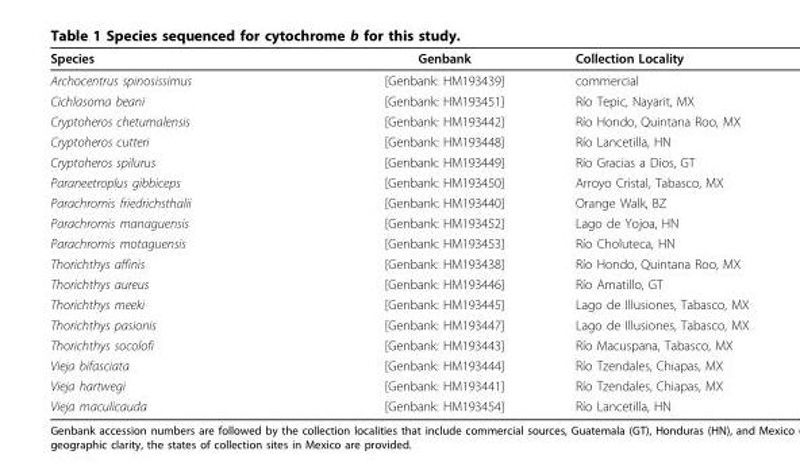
<table><thead><tr><td>Species</td><td>Genbank</td><td>Collection Locality</td></tr></thead><tbody><tr><td>Archocentrus spinosissimus</td><td>[Genbank: HM193439]</td><td>commercial</td></tr><tr><td>Cichlasoma beani</td><td>[Genbank: HM193451]</td><td>Río Tepic, Nayarit, MX</td></tr><tr><td>Cryptoheros chetumalensis</td><td>[Genbank: HM193442]</td><td>Río Hondo, Quintana Roo, MX</td></tr><tr><td>Cryptoheros cutteri</td><td>[Genbank: HM193448]</td><td>Río Lancetilla, HN</td></tr><tr><td>Cryptoheros spilurus</td><td>[Genbank: HM193449]</td><td>Río Gracias a Dios, GT</td></tr><tr><td>Paraneetroplus gibbiceps</td><td>[Genbank: HM193450]</td><td>Arroyo Cristal, Tabasco, MX</td></tr><tr><td>Parachromis friedrichsthalii</td><td>[Genbank: HM193440]</td><td>Orange Walk, BZ</td></tr><tr><td>Parachromis managuensis</td><td>[Genbank: HM193452]</td><td>Lago de Yojoa, HN</td></tr><tr><td>Parachromis motaguensis</td><td>[Genbank: HM193453]</td><td>Río Choluteca, HN</td></tr><tr><td>Thorichthys affinis</td><td>[Genbank: HM193438]</td><td>Río Hondo, Quintana Roo, MX</td></tr><tr><td>Thorichthys aureus</td><td>[Genbank: HM193446]</td><td>Río Amatillo, GT</td></tr><tr><td>Thorichthys meeki</td><td>[Genbank: HM193445]</td><td>Lago de Illusiones, Tabasco, MX</td></tr><tr><td>Thorichthys pasionis</td><td>[Genbank: HM193447]</td><td>Lago de Illusiones, Tabasco, MX</td></tr><tr><td>Thorichthys socolofi</td><td>[Genbank: HM193443]</td><td>Río Macuspana, Tabasco, MX</td></tr><tr><td>Vieja bifasciata</td><td>[Genbank: HM193444]</td><td>Río Tzendales, Chiapas, MX</td></tr><tr><td>Vieja hartwegi</td><td>[Genbank: HM193441]</td><td>Río Tzendales, Chiapas, MX</td></tr><tr><td>Vieja maculicauda</td><td>[Genbank: HM193454]</td><td>Río Lancetilla, HN</td></tr></tbody></table>